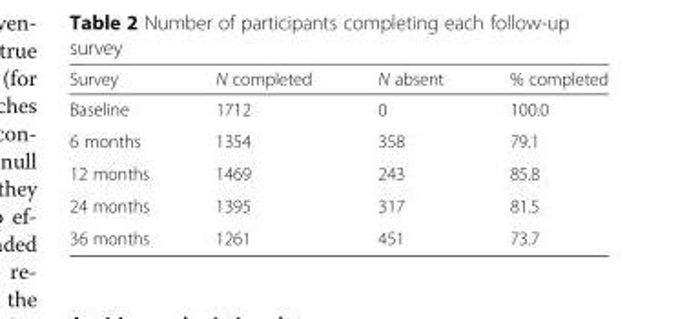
<table><thead><tr><td>Survey</td><td>N completed</td><td>N absent</td><td>% completed</td></tr></thead><tbody><tr><td>Baseline</td><td>1712</td><td>0</td><td>100.0</td></tr><tr><td>6 months</td><td>1354</td><td>358</td><td>79.1</td></tr><tr><td>12 months</td><td>1469</td><td>243</td><td>85.8</td></tr><tr><td>24 months</td><td>1395</td><td>317</td><td>81.5</td></tr><tr><td>36 months</td><td>1261</td><td>451</td><td>73.7</td></tr></tbody></table>